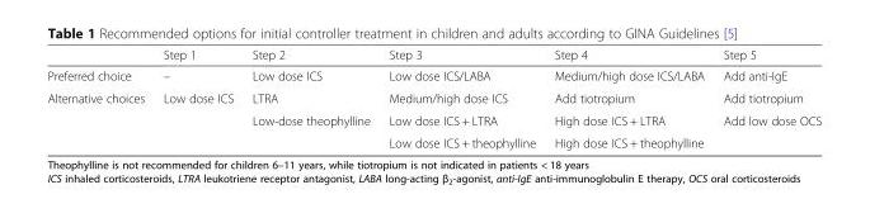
<table><thead><tr><td></td><td>Step 1</td><td>Step 2</td><td>Step 3</td><td>Step 4</td><td>Step 5</td></tr></thead><tbody><tr><td>Preferred choice</td><td>–</td><td>Low dose ICS</td><td>Low dose ICS/LABA</td><td>Medium/high dose ICS/LABA</td><td>Add anti-IgE</td></tr><tr><td rowspan="3">Alternative choices</td><td rowspan="3">Low dose ICS</td><td>LTRA</td><td>Medium/high dose ICS</td><td>Add tiotropium</td><td>Add tiotropium</td></tr><tr><td rowspan="2">Low-dose theophylline</td><td>Low dose ICS + LTRA</td><td>High dose ICS + LTRA</td><td rowspan="2">Add low dose OCS</td></tr><tr><td>Low dose ICS + theophylline</td><td>High dose ICS + theophylline</td></tr></tbody></table>